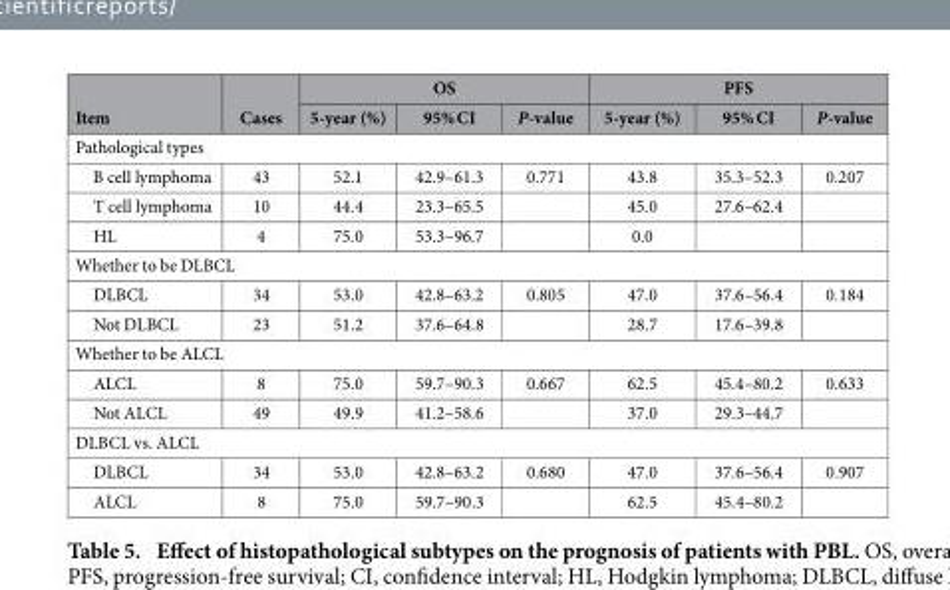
<table><thead><tr><td rowspan="2">Item</td><td rowspan="2">Cases</td><td colspan="3">OS</td><td colspan="3">PFS</td></tr><tr><td>5-year (%)</td><td>95% CI</td><td>P-value</td><td>5-year (%)</td><td>95% CI</td><td>P-value</td></tr></thead><tbody><tr><td colspan="8">Pathological types</td></tr><tr><td>B cell lymphoma</td><td>43</td><td>52.1</td><td>42.9–61.3</td><td>0.771</td><td>43.8</td><td>35.3–52.3</td><td>0.207</td></tr><tr><td>T cell lymphoma</td><td>10</td><td>44.4</td><td>23.3–65.5</td><td></td><td>45.0</td><td>27.6–62.4</td><td></td></tr><tr><td>HL</td><td>4</td><td>75.0</td><td>53.3–96.7</td><td></td><td>0.0</td><td></td><td></td></tr><tr><td colspan="8">Whether to be DLBCL</td></tr><tr><td>DLBCL</td><td>34</td><td>53.0</td><td>42.8–63.2</td><td>0.805</td><td>47.0</td><td>37.6–56.4</td><td>0.184</td></tr><tr><td>Not DLBCL</td><td>23</td><td>51.2</td><td>37.6–64.8</td><td></td><td>28.7</td><td>17.6–39.8</td><td></td></tr><tr><td colspan="8">Whether to be ALCL</td></tr><tr><td>ALCL</td><td>8</td><td>75.0</td><td>59.7–90.3</td><td>0.667</td><td>62.5</td><td>45.4–80.2</td><td>0.633</td></tr><tr><td>Not ALCL</td><td>49</td><td>49.9</td><td>41.2–58.6</td><td></td><td>37.0</td><td>29.3–44.7</td><td></td></tr><tr><td colspan="8">DLBCL vs. ALCL</td></tr><tr><td>DLBCL</td><td>34</td><td>53.0</td><td>42.8–63.2</td><td>0.680</td><td>47.0</td><td>37.6–56.4</td><td>0.907</td></tr><tr><td>ALCL</td><td>8</td><td>75.0</td><td>59.7–90.3</td><td></td><td>62.5</td><td>45.4–80.2</td><td></td></tr></tbody></table>